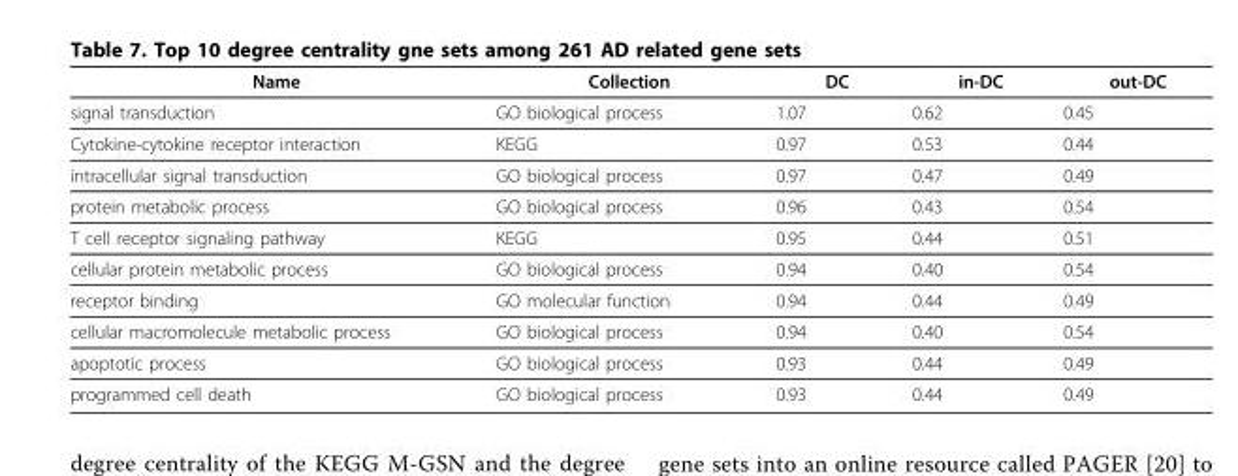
<table><thead><tr><td>Name</td><td>Collection</td><td>DC</td><td>in-DC</td><td>out-DC</td></tr></thead><tbody><tr><td>signal transduction</td><td>GO biological process</td><td>1.07</td><td>0.62</td><td>0.45</td></tr><tr><td>Cytokine-cytokine receptor interaction</td><td>KEGG</td><td>0.97</td><td>0.53</td><td>0.44</td></tr><tr><td>intracellular signal transduction</td><td>GO biological process</td><td>0.97</td><td>0.47</td><td>0.49</td></tr><tr><td>protein metabolic process</td><td>GO biological process</td><td>0.96</td><td>0.43</td><td>0.54</td></tr><tr><td>T cell receptor signaling pathway</td><td>KEGG</td><td>0.95</td><td>0.44</td><td>0.51</td></tr><tr><td>cellular protein metabolic process</td><td>GO biological process</td><td>0.94</td><td>0.40</td><td>0.54</td></tr><tr><td>receptor binding</td><td>GO molecular function</td><td>0.94</td><td>0.44</td><td>0.49</td></tr><tr><td>cellular macromolecule metabolic process</td><td>GO biological process</td><td>0.94</td><td>0.40</td><td>0.54</td></tr><tr><td>apoptotic process</td><td>GO biological process</td><td>0.93</td><td>0.44</td><td>0.49</td></tr><tr><td>programmed cell death</td><td>GO biological process</td><td>0.93</td><td>0.44</td><td>0.49</td></tr></tbody></table>